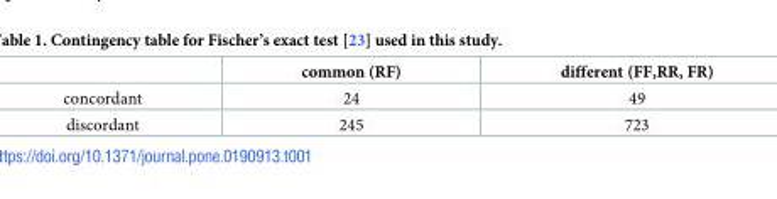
<table><thead><tr><td></td><td>common (RF)</td><td>different (FF,RR, FR)</td></tr></thead><tbody><tr><td>concordant</td><td>24</td><td>49</td></tr><tr><td>discordant</td><td>245</td><td>723</td></tr></tbody></table>